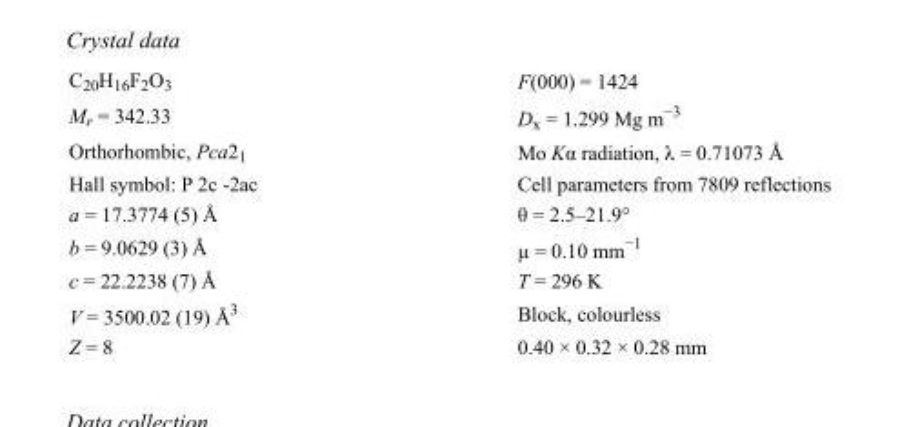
<table><tbody><tr><td>C<sub>20</sub>H<sub>16</sub>F<sub>2</sub>O<sub>3</sub></td><td>F(000) = 1424</td></tr><tr><td>M<sub>r</sub> = 342.33</td><td>D<sub>x</sub> = 1.299 Mg m<sup>−3</sup></td></tr><tr><td>Orthorhombic, Pca2<sub>1</sub></td><td>Mo Kα radiation, λ = 0.71073 Å</td></tr><tr><td>Hall symbol: P 2c -2ac</td><td>Cell parameters from 7809 reflections</td></tr><tr><td>a = 17.3774 (5) Å</td><td>θ = 2.5–21.9°</td></tr><tr><td>b = 9.0629 (3) Å</td><td>µ = 0.10 mm<sup>−1</sup></td></tr><tr><td>c = 22.2238 (7) Å</td><td>T = 296 K</td></tr><tr><td>V = 3500.02 (19) Å<sup>3</sup></td><td>Block, colourless</td></tr><tr><td>Z = 8</td><td>0.40 × 0.32 × 0.28 mm</td></tr></tbody></table>